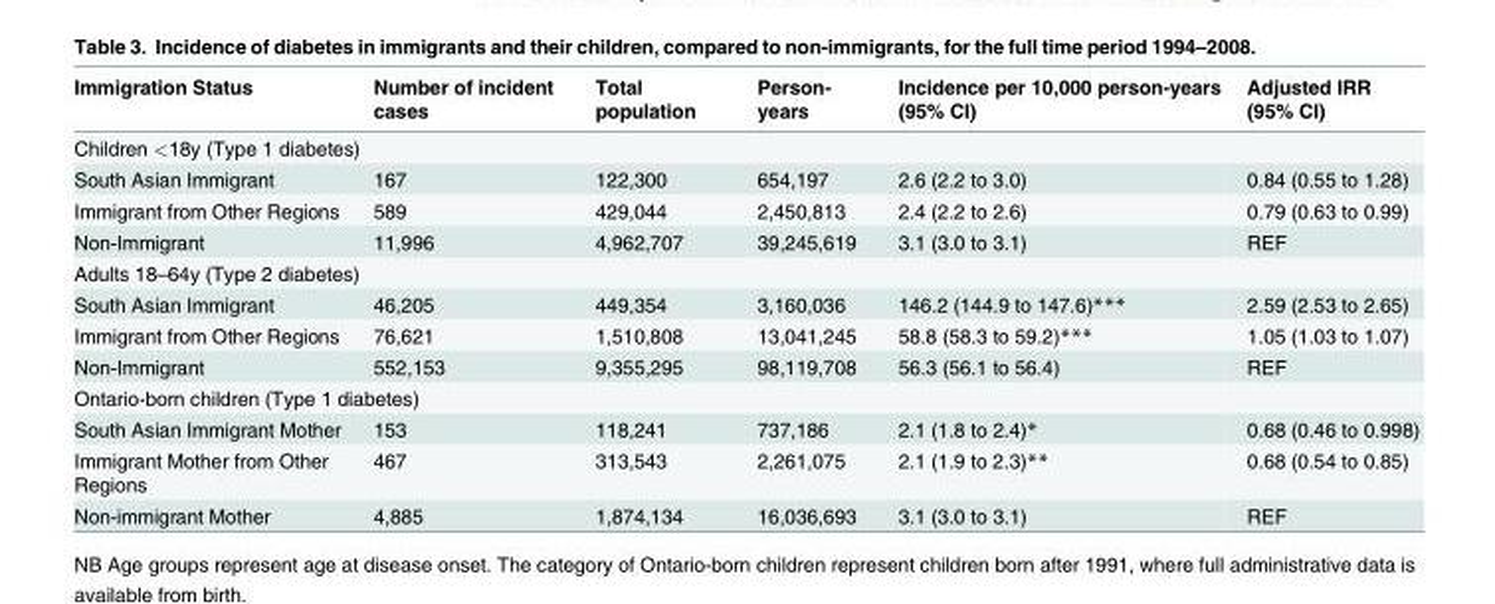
<table><thead><tr><td>Immigration Status</td><td>Number of incident cases</td><td>Total population</td><td>Person- years</td><td>Incidence per 10,000 person-years (95% CI)</td><td>Adjusted IRR (95% CI)</td></tr></thead><tbody><tr><td colspan="6">Children &lt;18y (Type 1 diabetes)</td></tr><tr><td>South Asian Immigrant</td><td>167</td><td>122,300</td><td>654,197</td><td>2.6 (2.2 to 3.0)</td><td>0.84 (0.55 to 1.28)</td></tr><tr><td>Immigrant from Other Regions</td><td>589</td><td>429,044</td><td>2,450,813</td><td>2.4 (2.2 to 2.6)</td><td>0.79 (0.63 to 0.99)</td></tr><tr><td>Non-Immigrant</td><td>11,996</td><td>4,962,707</td><td>39,245,619</td><td>3.1 (3.0 to 3.1)</td><td>REF</td></tr><tr><td colspan="6">Adults 18–64y (Type 2 diabetes)</td></tr><tr><td>South Asian Immigrant</td><td>46,205</td><td>449,354</td><td>3,160,036</td><td>146.2 (144.9 to 147.6)***</td><td>2.59 (2.53 to 2.65)</td></tr><tr><td>Immigrant from Other Regions</td><td>76,621</td><td>1,510,808</td><td>13,041,245</td><td>58.8 (58.3 to 59.2)***</td><td>1.05 (1.03 to 1.07)</td></tr><tr><td>Non-Immigrant</td><td>552,153</td><td>9,355,295</td><td>98,119,708</td><td>56.3 (56.1 to 56.4)</td><td>REF</td></tr><tr><td colspan="6">Ontario-born children (Type 1 diabetes)</td></tr><tr><td>South Asian Immigrant Mother</td><td>153</td><td>118,241</td><td>737,186</td><td>2.1 (1.8 to 2.4)*</td><td>0.68 (0.46 to 0.998)</td></tr><tr><td>Immigrant Mother from Other Regions</td><td>467</td><td>313,543</td><td>2,261,075</td><td>2.1 (1.9 to 2.3)**</td><td>0.68 (0.54 to 0.85)</td></tr><tr><td>Non-immigrant Mother</td><td>4,885</td><td>1,874,134</td><td>16,036,693</td><td>3.1 (3.0 to 3.1)</td><td>REF</td></tr></tbody></table>